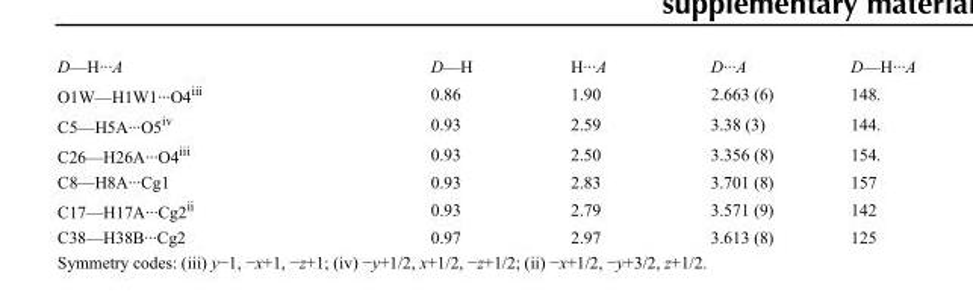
<table><tbody><tr><td>D—H···A</td><td>D—H</td><td>H···A</td><td>D···A</td><td>D—H···A</td></tr><tr><td>O1W—H1W1···O4<sup>iii</sup></td><td>0.86</td><td>1.90</td><td>2.663 (6)</td><td>148.</td></tr><tr><td>C5—H5A···O5<sup>iv</sup></td><td>0.93</td><td>2.59</td><td>3.38 (3)</td><td>144.</td></tr><tr><td>C26—H26A···O4<sup>iii</sup></td><td>0.93</td><td>2.50</td><td>3.356 (8)</td><td>154.</td></tr><tr><td>C8—H8A···Cg1</td><td>0.93</td><td>2.83</td><td>3.701 (8)</td><td>157</td></tr><tr><td>C17—H17A···Cg2<sup>ii</sup></td><td>0.93</td><td>2.79</td><td>3.571 (9)</td><td>142</td></tr><tr><td>C38—H38B···Cg2</td><td>0.97</td><td>2.97</td><td>3.613 (8)</td><td>125</td></tr></tbody></table>